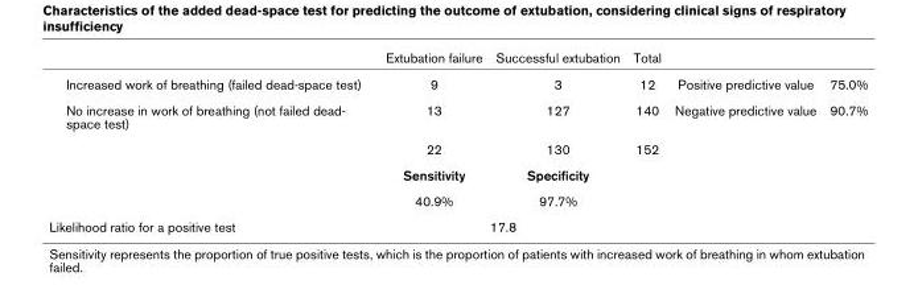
<table><thead><tr><td></td><td>Extubation failure</td><td>Successful extubation</td><td>Total</td><td></td><td></td></tr></thead><tbody><tr><td>Increased work of breathing (failed dead-space test)</td><td>9</td><td>3</td><td>12</td><td>Positive predictive value</td><td>75.0%</td></tr><tr><td rowspan="4">No increase in work of breathing (not failed dead- space test)</td><td>13</td><td>127</td><td>140</td><td>Negative predictive value</td><td>90.7%</td></tr><tr><td>22</td><td>130</td><td>152</td><td></td><td></td></tr><tr><td>Sensitivity</td><td>Specificity</td><td></td><td></td><td></td></tr><tr><td>40.9%</td><td>97.7%</td><td></td><td></td><td></td></tr><tr><td>Likelihood ratio for a positive test</td><td colspan="2">17.8</td><td></td><td></td><td></td></tr></tbody></table>